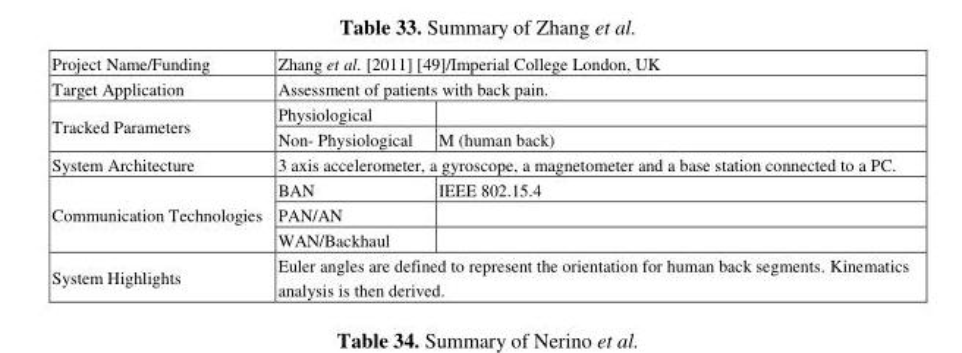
<table><tbody><tr><td>Project Name/Funding</td><td colspan="2">Zhang et al. [2011] [49]/Imperial College London, UK</td></tr><tr><td>Target Application</td><td colspan="2">Assessment of patients with back pain.</td></tr><tr><td rowspan="2">Tracked Parameters</td><td>Physiological</td><td></td></tr><tr><td>Non- Physiological</td><td>M (human back)</td></tr><tr><td>System Architecture</td><td colspan="2">3 axis accelerometer, a gyroscope, a magnetometer and a base station connected to a PC.</td></tr><tr><td rowspan="3">Communication Technologies</td><td>BAN</td><td>IEEE 802.15.4</td></tr><tr><td>PAN/AN</td><td></td></tr><tr><td>WAN/Backhaul</td><td></td></tr><tr><td>System Highlights</td><td colspan="2">Euler angles are defined to represent the orientation for human back segments. Kinematics analysis is then derived.</td></tr></tbody></table>